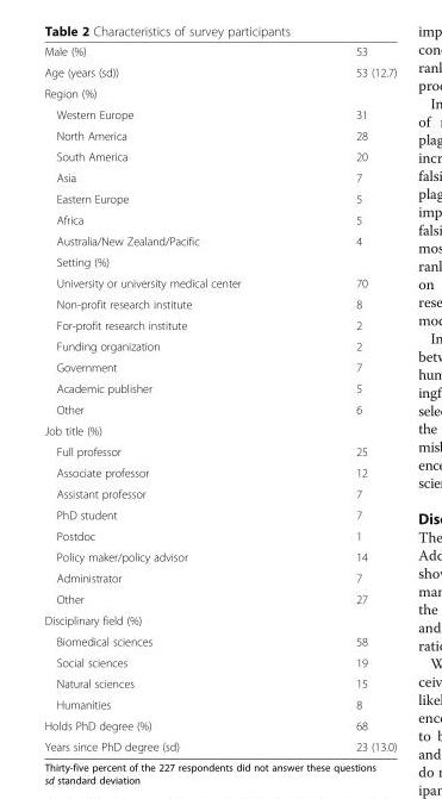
<table><tbody><tr><td>Male (%)</td><td>53</td></tr><tr><td>Age (years (sd))</td><td>53 (12.7)</td></tr><tr><td colspan="2">Region (%)</td></tr><tr><td>Western Europe</td><td>31</td></tr><tr><td>North America</td><td>28</td></tr><tr><td>South America</td><td>20</td></tr><tr><td>Asia</td><td>7</td></tr><tr><td>Eastern Europe</td><td>5</td></tr><tr><td>Africa</td><td>5</td></tr><tr><td>Australia/New Zealand/Pacific</td><td>4</td></tr><tr><td colspan="2">Setting (%)</td></tr><tr><td>University or university medical center</td><td>70</td></tr><tr><td>Non-profit research institute</td><td>8</td></tr><tr><td>For-profit research institute</td><td>2</td></tr><tr><td>Funding organization</td><td>2</td></tr><tr><td>Government</td><td>7</td></tr><tr><td>Academic publisher</td><td>5</td></tr><tr><td>Other</td><td>6</td></tr><tr><td colspan="2">Job title (%)</td></tr><tr><td>Full professor</td><td>25</td></tr><tr><td>Associate professor</td><td>12</td></tr><tr><td>Assistant professor</td><td>7</td></tr><tr><td>PhD student</td><td>7</td></tr><tr><td>Postdoc</td><td>1</td></tr><tr><td>Policy maker/policy advisor</td><td>14</td></tr><tr><td>Administrator</td><td>7</td></tr><tr><td>Other</td><td>27</td></tr><tr><td colspan="2">Disciplinary field (%)</td></tr><tr><td>Biomedical sciences</td><td>58</td></tr><tr><td>Social sciences</td><td>19</td></tr><tr><td>Natural sciences</td><td>15</td></tr><tr><td>Humanities</td><td>8</td></tr><tr><td>Holds PhD degree (%)</td><td>68</td></tr><tr><td>Years since PhD degree (sd)</td><td>23 (13.0)</td></tr></tbody></table>